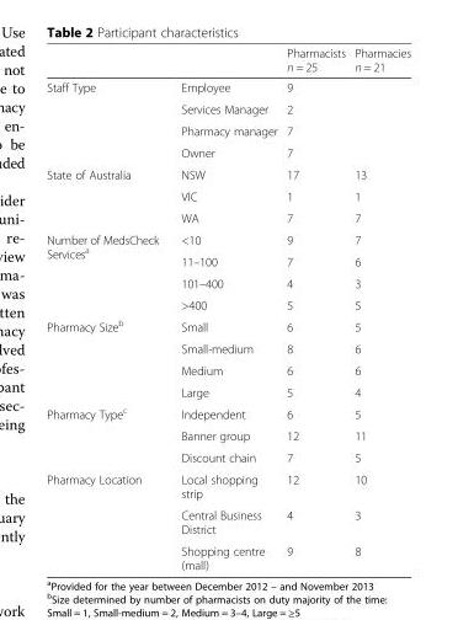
<table><thead><tr><td></td><td></td><td>Pharmacists n = 25</td><td>Pharmacies n = 21</td></tr></thead><tbody><tr><td rowspan="4">Staff Type</td><td>Employee</td><td>9</td><td></td></tr><tr><td>Services Manager</td><td>2</td><td></td></tr><tr><td>Pharmacy manager</td><td>7</td><td></td></tr><tr><td>Owner</td><td>7</td><td></td></tr><tr><td rowspan="3">State of Australia</td><td>NSW</td><td>17</td><td>13</td></tr><tr><td>VIC</td><td>1</td><td>1</td></tr><tr><td>WA</td><td>7</td><td>7</td></tr><tr><td rowspan="4">Number of MedsCheck Services<sup>a</sup></td><td>&lt;10</td><td>9</td><td>7</td></tr><tr><td>11–100</td><td>7</td><td>6</td></tr><tr><td>101–400</td><td>4</td><td>3</td></tr><tr><td>&gt;400</td><td>5</td><td>5</td></tr><tr><td rowspan="4">Pharmacy Size<sup>b</sup></td><td>Small</td><td>6</td><td>5</td></tr><tr><td>Small-medium</td><td>8</td><td>6</td></tr><tr><td>Medium</td><td>6</td><td>6</td></tr><tr><td>Large</td><td>5</td><td>4</td></tr><tr><td rowspan="3">Pharmacy Type<sup>c</sup></td><td>Independent</td><td>6</td><td>5</td></tr><tr><td>Banner group</td><td>12</td><td>11</td></tr><tr><td>Discount chain</td><td>7</td><td>5</td></tr><tr><td rowspan="3">Pharmacy Location</td><td>Local shopping strip</td><td>12</td><td>10</td></tr><tr><td>Central Business District</td><td>4</td><td>3</td></tr><tr><td>Shopping centre (mall)</td><td>9</td><td>8</td></tr></tbody></table>